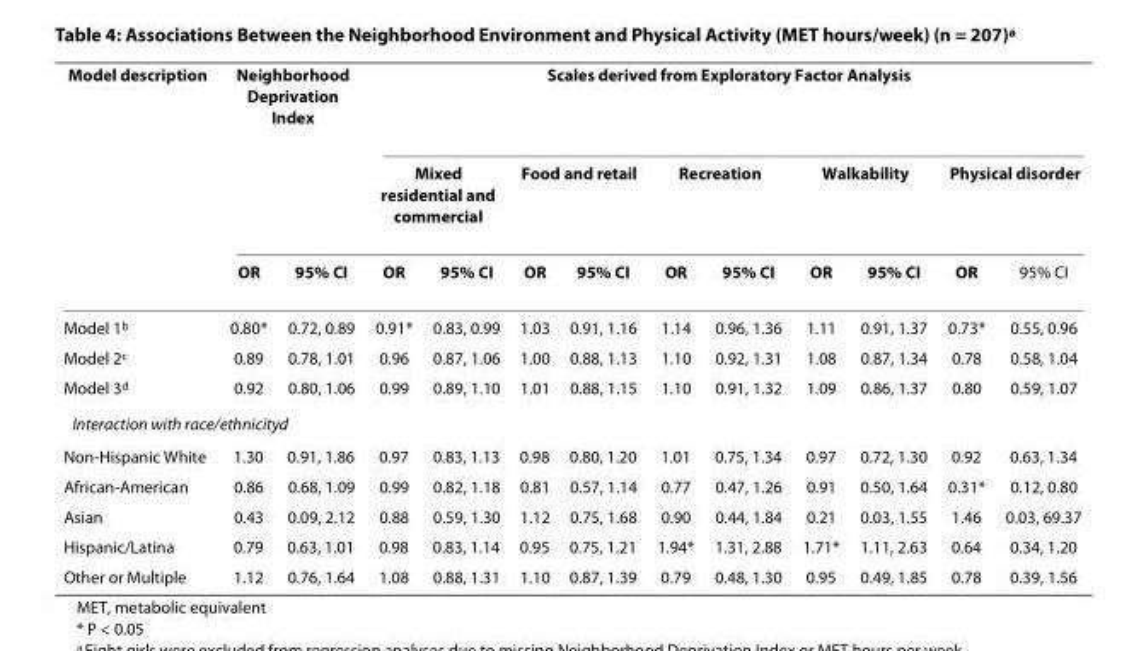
<table><thead><tr><td rowspan="3">Model description</td><td colspan="2">Neighborhood Deprivation Index</td><td colspan="10">Scales derived from Exploratory Factor Analysis</td></tr><tr><td rowspan="2">OR</td><td rowspan="2">95% CI</td><td colspan="2">Mixed residential and commercial</td><td colspan="2">Food and retail</td><td colspan="2">Recreation</td><td colspan="2">Walkability</td><td colspan="2">Physical disorder</td></tr><tr><td>OR</td><td>95% CI</td><td>OR</td><td>95% CI</td><td>OR</td><td>95% CI</td><td>OR</td><td>95% CI</td><td>OR</td><td>95% CI</td></tr></thead><tbody><tr><td>Model 1<sup>b</sup></td><td>0.80*</td><td>0.72, 0.89</td><td>0.91*</td><td>0.83, 0.99</td><td>1.03</td><td>0.91, 1.16</td><td>1.14</td><td>0.96, 1.36</td><td>1.11</td><td>0.91, 1.37</td><td>0.73*</td><td>0.55, 0.96</td></tr><tr><td>Model 2<sup>c</sup></td><td>0.89</td><td>0.78, 1.01</td><td>0.96</td><td>0.87, 1.06</td><td>1.00</td><td>0.88, 1.13</td><td>1.10</td><td>0.92, 1.31</td><td>1.08</td><td>0.87, 1.34</td><td>0.78</td><td>0.58, 1.04</td></tr><tr><td>Model 3<sup>d</sup></td><td>0.92</td><td>0.80, 1.06</td><td>0.99</td><td>0.89, 1.10</td><td>1.01</td><td>0.88, 1.15</td><td>1.10</td><td>0.91, 1.32</td><td>1.09</td><td>0.86, 1.37</td><td>0.80</td><td>0.59, 1.07</td></tr><tr><td colspan="13">Interaction with race/ethnicity<sup>d</sup></td></tr><tr><td>Non-Hispanic White</td><td>1.30</td><td>0.91, 1.86</td><td>0.97</td><td>0.83, 1.13</td><td>0.98</td><td>0.80, 1.20</td><td>1.01</td><td>0.75, 1.34</td><td>0.97</td><td>0.72, 1.30</td><td>0.92</td><td>0.63, 1.34</td></tr><tr><td>African-American</td><td>0.86</td><td>0.68, 1.09</td><td>0.99</td><td>0.82, 1.18</td><td>0.81</td><td>0.57, 1.14</td><td>0.77</td><td>0.47, 1.26</td><td>0.91</td><td>0.50, 1.64</td><td>0.31*</td><td>0.12, 0.80</td></tr><tr><td>Asian</td><td>0.43</td><td>0.09, 2.12</td><td>0.88</td><td>0.59, 1.30</td><td>1.12</td><td>0.75, 1.68</td><td>0.90</td><td>0.44, 1.84</td><td>0.21</td><td>0.03, 1.55</td><td>1.46</td><td>0.03, 69.37</td></tr><tr><td>Hispanic/Latina</td><td>0.79</td><td>0.63, 1.01</td><td>0.98</td><td>0.83, 1.14</td><td>0.95</td><td>0.75, 1.21</td><td>1.94*</td><td>1.31, 2.88</td><td>1.71*</td><td>1.11, 2.63</td><td>0.64</td><td>0.34, 1.20</td></tr><tr><td>Other or Multiple</td><td>1.12</td><td>0.76, 1.64</td><td>1.08</td><td>0.88, 1.31</td><td>1.10</td><td>0.87, 1.39</td><td>0.79</td><td>0.48, 1.30</td><td>0.95</td><td>0.49, 1.85</td><td>0.78</td><td>0.39, 1.56</td></tr></tbody></table>